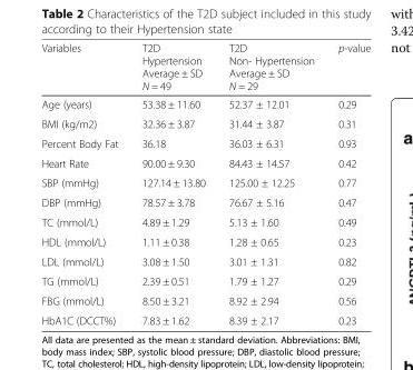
<table><thead><tr><td>Variables</td><td>T2D Hypertension Average ± SD N = 49</td><td>T2D Non- Hypertension Average ± SD N = 29</td><td>p-value</td></tr></thead><tbody><tr><td>Age (years)</td><td>53.38 ± 11.60</td><td>52.37 ± 12.01</td><td>0.29</td></tr><tr><td>BMI (kg/m2)</td><td>32.36 ± 3.87</td><td>31.44 ± 3.87</td><td>0.31</td></tr><tr><td>Percent Body Fat</td><td>36.18</td><td>36.03 ± 6.31</td><td>0.93</td></tr><tr><td>Heart Rate</td><td>90.00 ± 9.30</td><td>84.43 ± 14.57</td><td>0.42</td></tr><tr><td>SBP (mmHg)</td><td>127.14 ± 13.80</td><td>125.00 ± 12.25</td><td>0.77</td></tr><tr><td>DBP (mmHg)</td><td>78.57 ± 3.78</td><td>76.67 ± 5.16</td><td>0.47</td></tr><tr><td>TC (mmol/L)</td><td>4.89 ± 1.29</td><td>5.13 ± 1.60</td><td>0.49</td></tr><tr><td>HDL (mmol/L)</td><td>1.11 ± 0.38</td><td>1.28 ± 0.65</td><td>0.23</td></tr><tr><td>LDL (mmol/L)</td><td>3.08 ± 1.50</td><td>3.01 ± 1.31</td><td>0.82</td></tr><tr><td>TG (mmol/L)</td><td>2.39 ± 0.51</td><td>1.79 ± 1.27</td><td>0.29</td></tr><tr><td>FBG (mmol/L)</td><td>8.50 ± 3.21</td><td>8.92 ± 2.94</td><td>0.56</td></tr><tr><td>HbA1C (DCCT%)</td><td>7.83 ± 1.62</td><td>8.39 ± 2.17</td><td>0.23</td></tr></tbody></table>